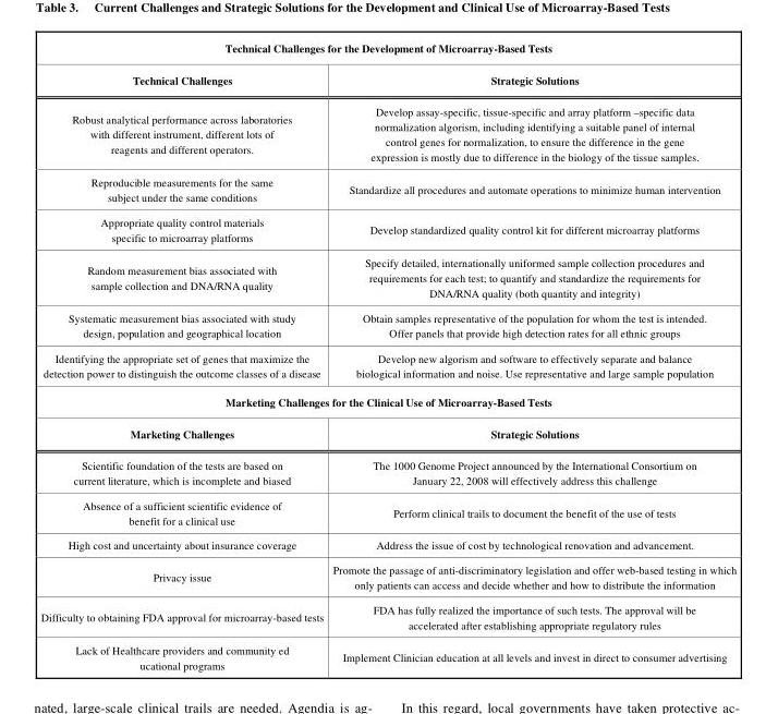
<table><thead><tr><td colspan="2">Technical Challenges for the Development of Microarray-Based Tests</td></tr><tr><td>Technical Challenges</td><td>Strategic Solutions</td></tr></thead><tbody><tr><td>Robust analytical performance across laboratories with different instrument, different lots of reagents and different operators.</td><td>Develop assay-specific, tissue-specific and array platform –specific data normalization algorism, including identifying a suitable panel of internal control genes for normalization, to ensure the difference in the gene expression is mostly due to difference in the biology of the tissue samples.</td></tr><tr><td>Reproducible measurements for the same subject under the same conditions</td><td>Standardize all procedures and automate operations to minimize human intervention</td></tr><tr><td>Appropriate quality control materials specific to microarray platforms</td><td>Develop standardized quality control kit for different microarray platforms</td></tr><tr><td>Random measurement bias associated with sample collection and DNA/RNA quality</td><td>Specify detailed, internationally uniformed sample collection procedures and requirements for each test; to quantify and standardize the requirements for DNA/RNA quality (both quantity and integrity)</td></tr><tr><td>Systematic measurement bias associated with study design, population and geographical location</td><td>Obtain samples representative of the population for whom the test is intended. Offer panels that provide high detection rates for all ethnic groups</td></tr><tr><td>Identifying the appropriate set of genes that maximize the detection power to distinguish the outcome classes of a disease</td><td>Develop new algorism and software to effectively separate and balance biological information and noise. Use representative and large sample population</td></tr><tr><td colspan="2">Marketing Challenges for the Clinical Use of Microarray-Based Tests</td></tr><tr><td>Marketing Challenges</td><td>Strategic Solutions</td></tr><tr><td>Scientific foundation of the tests are based on current literature, which is incomplete and biased</td><td>The 1000 Genome Project announced by the International Consortium on January 22, 2008 will effectively address this challenge</td></tr><tr><td>Absence of a sufficient scientific evidence of benefit for a clinical use</td><td>Perform clinical trails to document the benefit of the use of tests</td></tr><tr><td>High cost and uncertainty about insurance coverage</td><td>Address the issue of cost by technological renovation and advancement.</td></tr><tr><td>Privacy issue</td><td>Promote the passage of anti-discriminatory legislation and offer web-based testing in which only patients can access and decide whether and how to distribute the information</td></tr><tr><td>Difficulty to obtaining FDA approval for microarray-based tests</td><td>FDA has fully realized the importance of such tests. The approval will be accelerated after establishing appropriate regulatory rules</td></tr><tr><td>Lack of Healthcare providers and community ed ucational programs</td><td>Implement Clinician education at all levels and invest in direct to consumer advertising</td></tr></tbody></table>